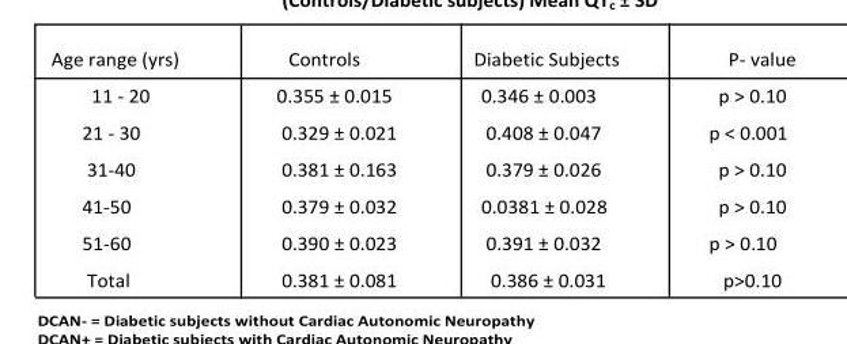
<table><thead><tr><td>Age range (yrs)</td><td>Controls</td><td>Diabetic Subjects</td><td>P- value</td></tr></thead><tbody><tr><td>11 - 20</td><td>0.355 ± 0.015</td><td>0.346 ± 0.003</td><td>p &gt; 0.10</td></tr><tr><td>21 - 30</td><td>0.329 ± 0.021</td><td>0.408 ± 0.047</td><td>p &lt; 0.001</td></tr><tr><td>31-40</td><td>0.381 ± 0.163</td><td>0.379 ± 0.026</td><td>p &gt; 0.10</td></tr><tr><td>41-50</td><td>0.379 ± 0.032</td><td>0.0381 ± 0.028</td><td>p &gt; 0.10</td></tr><tr><td>51-60</td><td>0.390 ± 0.023</td><td>0.391 ± 0.032</td><td>p &gt; 0.10</td></tr><tr><td>Total</td><td>0.381 ± 0.081</td><td>0.386 ± 0.031</td><td>p&gt;0.10</td></tr></tbody></table>